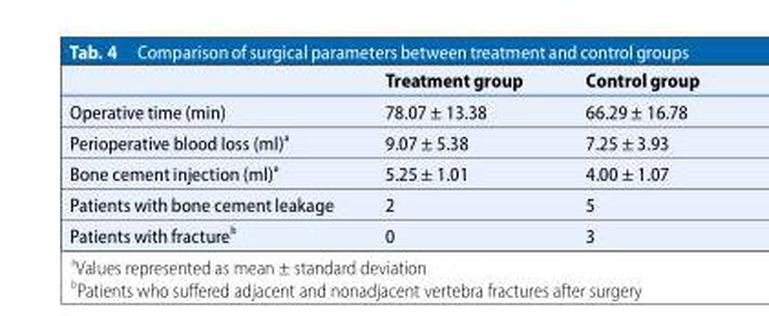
<table><thead><tr><td></td><td>Treatment group</td><td>Control group</td></tr></thead><tbody><tr><td>Operative time (min)</td><td>78.07 ± 13.38</td><td>66.29 ± 16.78</td></tr><tr><td>Perioperative blood loss (ml)<sup>a</sup></td><td>9.07 ± 5.38</td><td>7.25 ± 3.93</td></tr><tr><td>Bone cement injection (ml)<sup>a</sup></td><td>5.25 ± 1.01</td><td>4.00 ± 1.07</td></tr><tr><td>Patients with bone cement leakage</td><td>2</td><td>5</td></tr><tr><td>Patients with fracture<sup>b</sup></td><td>0</td><td>3</td></tr></tbody></table>